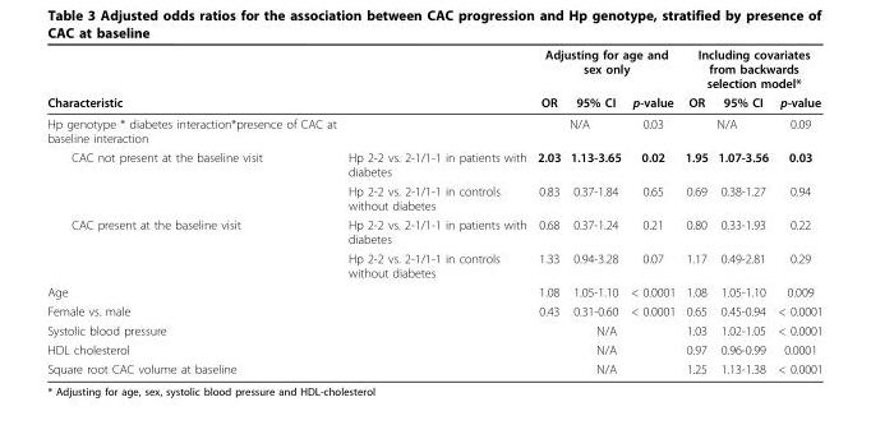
<table><thead><tr><td rowspan="2">Characteristic</td><td rowspan="2"></td><td colspan="3">Adjusting for age and sex only</td><td colspan="3">Including covariates from backwards selection model*</td></tr><tr><td>OR</td><td>95% CI</td><td>p-value</td><td>OR</td><td>95% CI</td><td>p-value</td></tr></thead><tbody><tr><td>Hp genotype * diabetes interaction*presence of CAC at baseline interaction</td><td></td><td colspan="2">N/A</td><td>0.03</td><td colspan="2">N/A</td><td>0.09</td></tr><tr><td rowspan="2">CAC not present at the baseline visit</td><td>Hp 2-2 vs. 2-1/1-1 in patients with diabetes</td><td>2.03</td><td>1.13-3.65</td><td>0.02</td><td>1.95</td><td>1.07-3.56</td><td>0.03</td></tr><tr><td>Hp 2-2 vs. 2-1/1-1 in controls without diabetes</td><td>0.83</td><td>0.37-1.84</td><td>0.65</td><td>0.69</td><td>0.38-1.27</td><td>0.94</td></tr><tr><td rowspan="2">CAC present at the baseline visit</td><td>Hp 2-2 vs. 2-1/1-1 in patients with diabetes</td><td>0.68</td><td>0.37-1.24</td><td>0.21</td><td>0.80</td><td>0.33-1.93</td><td>0.22</td></tr><tr><td>Hp 2-2 vs. 2-1/1-1 in controls without diabetes</td><td>1.33</td><td>0.94-3.28</td><td>0.07</td><td>1.17</td><td>0.49-2.81</td><td>0.29</td></tr><tr><td>Age</td><td></td><td>1.08</td><td>1.05-1.10</td><td>&lt; 0.0001</td><td>1.08</td><td>1.05-1.10</td><td>0.009</td></tr><tr><td>Female vs. male</td><td></td><td>0.43</td><td>0.31-0.60</td><td>&lt; 0.0001</td><td>0.65</td><td>0.45-0.94</td><td>&lt; 0.0001</td></tr><tr><td>Systolic blood pressure</td><td></td><td colspan="3">N/A</td><td>1.03</td><td>1.02-1.05</td><td>&lt; 0.0001</td></tr><tr><td>HDL cholesterol</td><td></td><td colspan="3">N/A</td><td>0.97</td><td>0.96-0.99</td><td>0.0001</td></tr><tr><td>Square root CAC volume at baseline</td><td></td><td colspan="3">N/A</td><td>1.25</td><td>1.13-1.38</td><td>&lt; 0.0001</td></tr></tbody></table>